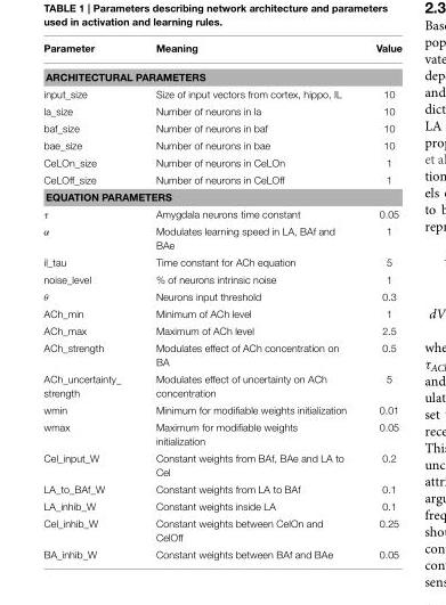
<table><thead><tr><td>Parameter</td><td>Meaning</td><td>Value</td></tr></thead><tbody><tr><td colspan="3">ARCHITECTURAL PARAMETERS</td></tr><tr><td>input_size</td><td>Size of input vectors from cortex, hippo, IL</td><td>10</td></tr><tr><td>la_size</td><td>Number of neurons in la</td><td>10</td></tr><tr><td>baf_size</td><td>Number of neurons in baf</td><td>10</td></tr><tr><td>bae_size</td><td>Number of neurons in bae</td><td>10</td></tr><tr><td>CeLOn_size</td><td>Number of neurons in CeLOn</td><td>1</td></tr><tr><td>CeLOff_size</td><td>Number of neurons in CeLOff</td><td>1</td></tr><tr><td colspan="3">EQUATION PARAMETERS</td></tr><tr><td>τ</td><td>Amygdala neurons time constant</td><td>0.05</td></tr><tr><td>α</td><td>Modulates learning speed in LA, BAf and BAe</td><td>1</td></tr><tr><td>il_tau</td><td>Time constant for ACh equation</td><td>5</td></tr><tr><td>noise_level</td><td>% of neurons intrinsic noise</td><td>1</td></tr><tr><td>θ</td><td>Neurons input threshold</td><td>0.3</td></tr><tr><td>ACh_min</td><td>Minimum of ACh level</td><td>1</td></tr><tr><td>ACh_max</td><td>Maximum of ACh level</td><td>2.5</td></tr><tr><td>ACh_strength</td><td>Modulates effect of ACh concentration on BA</td><td>0.5</td></tr><tr><td>ACh_uncertainty_ strength</td><td>Modulates effect of uncertainty on ACh concentration</td><td>5</td></tr><tr><td>wmin</td><td>Minimum for modifiable weights initialization</td><td>0.01</td></tr><tr><td>wmax</td><td>Maximum for modifiable weights initialization</td><td>0.05</td></tr><tr><td>Cel_input_W</td><td>Constant weights from BAf, BAe and LA to Cel</td><td>0.2</td></tr><tr><td>LA_to_BAf_W</td><td>Constant weights from LA to BAf</td><td>0.1</td></tr><tr><td>LA_inhib_W</td><td>Constant weights inside LA</td><td>0.1</td></tr><tr><td>Cel_inhib_W</td><td>Constant weights between CelOn and CelOff</td><td>0.25</td></tr><tr><td>BA_inhib_W</td><td>Constant weights between BAf and BAe</td><td>0.05</td></tr></tbody></table>